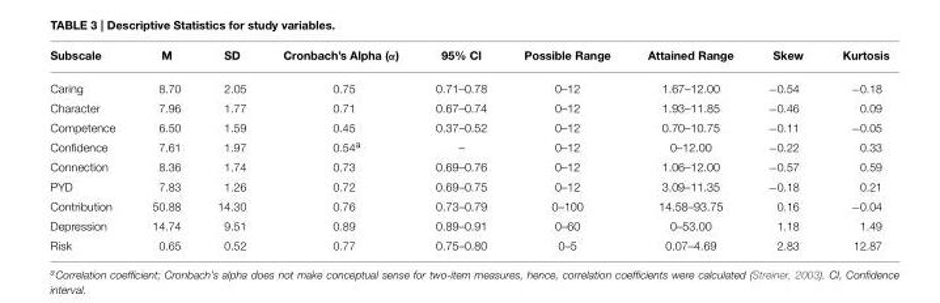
<table><thead><tr><td>Subscale</td><td>M</td><td>SD</td><td>Cronbach’s Alpha (α)</td><td>95% CI</td><td>Possible Range</td><td>Attained Range</td><td>Skew</td><td>Kurtosis</td></tr></thead><tbody><tr><td>Caring</td><td>8.70</td><td>2.05</td><td>0.75</td><td>0.71–0.78</td><td>0–12</td><td>1.67–12.00</td><td>−0.54</td><td>−0.18</td></tr><tr><td>Character</td><td>7.96</td><td>1.77</td><td>0.71</td><td>0.67–0.74</td><td>0–12</td><td>1.93–11.85</td><td>−0.46</td><td>0.09</td></tr><tr><td>Competence</td><td>6.50</td><td>1.59</td><td>0.45</td><td>0.37–0.52</td><td>0–12</td><td>0.70–10.75</td><td>−0.11</td><td>−0.05</td></tr><tr><td>Confidence</td><td>7.61</td><td>1.97</td><td>0.54<sup>a</sup></td><td>–</td><td>0–12</td><td>0–12.00</td><td>−0.22</td><td>0.33</td></tr><tr><td>Connection</td><td>8.36</td><td>1.74</td><td>0.73</td><td>0.69–0.76</td><td>0–12</td><td>1.06–12.00</td><td>−0.57</td><td>0.59</td></tr><tr><td>PYD</td><td>7.83</td><td>1.26</td><td>0.72</td><td>0.69–0.75</td><td>0–12</td><td>3.09–11.35</td><td>−0.18</td><td>0.21</td></tr><tr><td>Contribution</td><td>50.88</td><td>14.30</td><td>0.76</td><td>0.73–0.79</td><td>0–100</td><td>14.58–93.75</td><td>0.16</td><td>−0.04</td></tr><tr><td>Depression</td><td>14.74</td><td>9.51</td><td>0.89</td><td>0.89–0.91</td><td>0–60</td><td>0–53.00</td><td>1.18</td><td>1.49</td></tr><tr><td>Risk</td><td>0.65</td><td>0.52</td><td>0.77</td><td>0.75–0.80</td><td>0–5</td><td>0.07–4.69</td><td>2.83</td><td>12.87</td></tr></tbody></table>